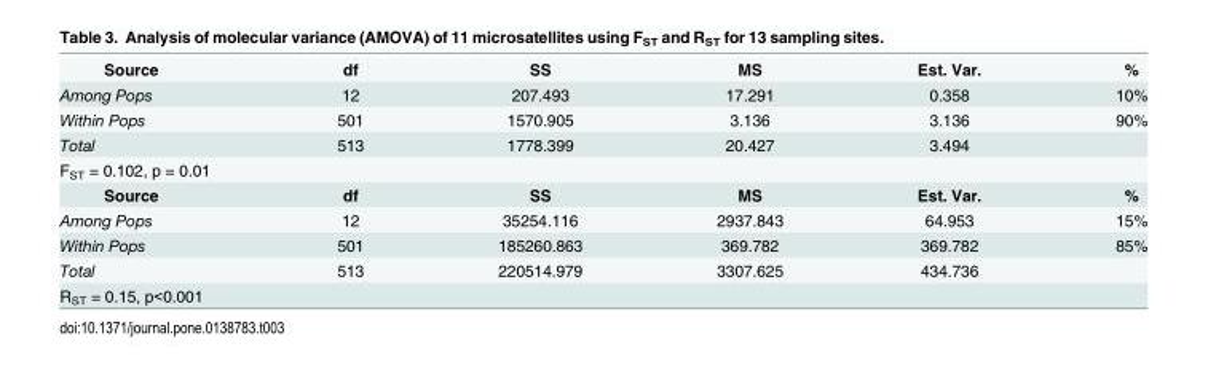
<table><tbody><tr><td>Source</td><td>df</td><td>SS</td><td>MS</td><td>Est. Var.</td><td>%</td></tr><tr><td>Among Pops</td><td>12</td><td>207.493</td><td>17.291</td><td>0.358</td><td>10%</td></tr><tr><td>Within Pops</td><td>501</td><td>1570.905</td><td>3.136</td><td>3.136</td><td>90%</td></tr><tr><td>Total</td><td>513</td><td>1778.399</td><td>20.427</td><td>3.494</td><td></td></tr><tr><td colspan="6">F<sub>ST</sub> = 0.102, p = 0.01</td></tr><tr><td>Source</td><td>df</td><td>SS</td><td>MS</td><td>Est. Var.</td><td>%</td></tr><tr><td>Among Pops</td><td>12</td><td>35254.116</td><td>2937.843</td><td>64.953</td><td>15%</td></tr><tr><td>Within Pops</td><td>501</td><td>185260.863</td><td>369.782</td><td>369.782</td><td>85%</td></tr><tr><td>Total</td><td>513</td><td>220514.979</td><td>3307.625</td><td>434.736</td><td></td></tr><tr><td>R<sub>ST</sub> = 0.15, p&lt;0.001</td><td></td><td></td><td></td><td></td><td></td></tr></tbody></table>